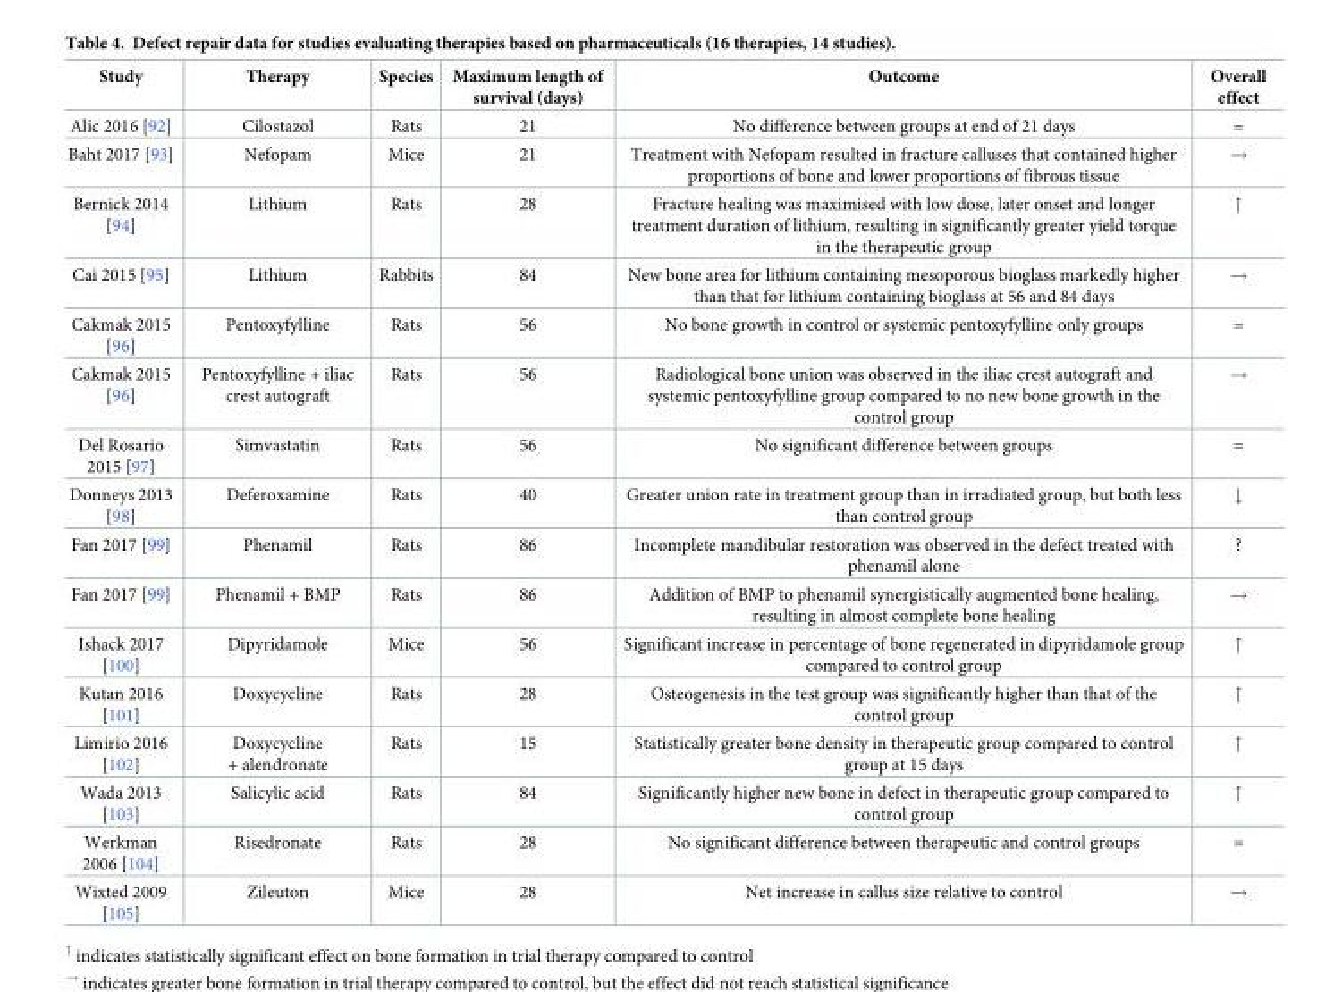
<table><thead><tr><td>Study</td><td>Therapy</td><td>Species</td><td>Maximum length of survival (days)</td><td>Outcome</td><td>Overall effect</td></tr></thead><tbody><tr><td>Alic 2016 [92]</td><td>Cilostazol</td><td>Rats</td><td>21</td><td>No difference between groups at end of 21 days</td><td>=</td></tr><tr><td>Baht 2017 [93]</td><td>Nefopam</td><td>Mice</td><td>21</td><td>Treatment with Nefopam resulted in fracture calluses that contained higher proportions of bone and lower proportions of fibrous tissue</td><td>→</td></tr><tr><td>Bernick 2014 [94]</td><td>Lithium</td><td>Rats</td><td>28</td><td>Fracture healing was maximised with low dose, later onset and longer treatment duration of lithium, resulting in significantly greater yield torque in the therapeutic group</td><td>↑</td></tr><tr><td>Cai 2015 [95]</td><td>Lithium</td><td>Rabbits</td><td>84</td><td>New bone area for lithium containing mesoporous bioglass markedly higher than that for lithium containing bioglass at 56 and 84 days</td><td>→</td></tr><tr><td>Cakmak 2015 [96]</td><td>Pentoxyfylline</td><td>Rats</td><td>56</td><td>No bone growth in control or systemic pentoxyfylline only groups</td><td>=</td></tr><tr><td>Cakmak 2015 [96]</td><td>Pentoxyfylline + iliac crest autograft</td><td>Rats</td><td>56</td><td>Radiological bone union was observed in the iliac crest autograft and systemic pentoxyfylline group compared to no new bone growth in the control group</td><td>→</td></tr><tr><td>Del Rosario 2015 [97]</td><td>Simvastatin</td><td>Rats</td><td>56</td><td>No significant difference between groups</td><td>=</td></tr><tr><td>Donneys 2013 [98]</td><td>Deferoxamine</td><td>Rats</td><td>40</td><td>Greater union rate in treatment group than in irradiated group, but both less than control group</td><td>↓</td></tr><tr><td>Fan 2017 [99]</td><td>Phenamil</td><td>Rats</td><td>86</td><td>Incomplete mandibular restoration was observed in the defect treated with phenamil alone</td><td>?</td></tr><tr><td>Fan 2017 [99]</td><td>Phenamil + BMP</td><td>Rats</td><td>86</td><td>Addition of BMP to phenamil synergistically augmented bone healing, resulting in almost complete bone healing</td><td>→</td></tr><tr><td>Ishack 2017 [100]</td><td>Dipyridamole</td><td>Mice</td><td>56</td><td>Significant increase in percentage of bone regenerated in dipyridamole group compared to control group</td><td>↑</td></tr><tr><td>Kutan 2016 [101]</td><td>Doxycycline</td><td>Rats</td><td>28</td><td>Osteogenesis in the test group was significantly higher than that of the control group</td><td>↑</td></tr><tr><td>Limirio 2016 [102]</td><td>Doxycycline + alendronate</td><td>Rats</td><td>15</td><td>Statistically greater bone density in therapeutic group compared to control group at 15 days</td><td>↑</td></tr><tr><td>Wada 2013 [103]</td><td>Salicylic acid</td><td>Rats</td><td>84</td><td>Significantly higher new bone in defect in therapeutic group compared to control group</td><td>↑</td></tr><tr><td>Werkman 2006 [104]</td><td>Risedronate</td><td>Rats</td><td>28</td><td>No significant difference between therapeutic and control groups</td><td>=</td></tr><tr><td>Wixted 2009 [105]</td><td>Zileuton</td><td>Mice</td><td>28</td><td>Net increase in callus size relative to control</td><td>→</td></tr></tbody></table>